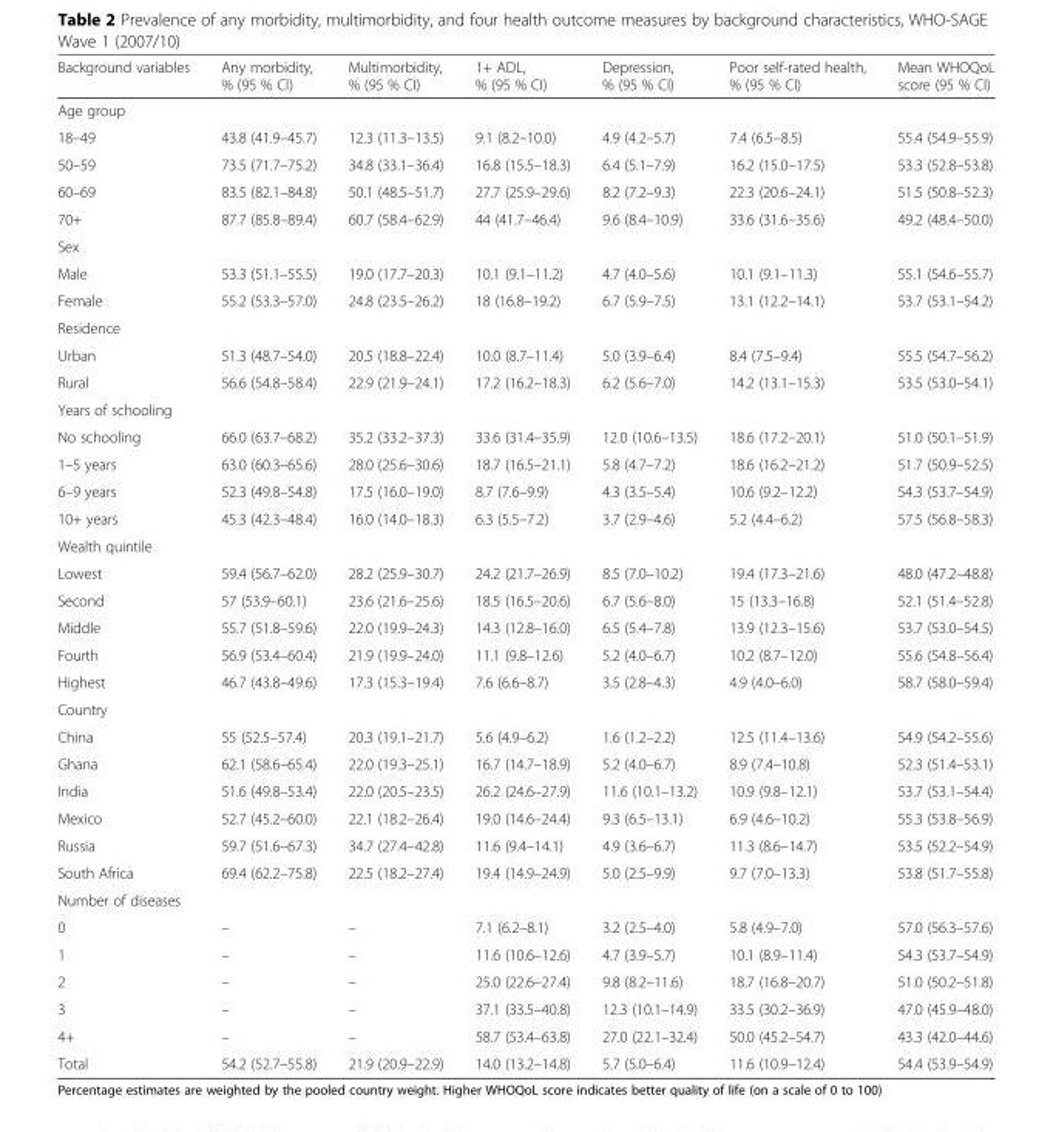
<table><thead><tr><td>Background variables</td><td>Any morbidity, % (95 % CI)</td><td>Multimorbidity, % (95 % CI)</td><td>1+ ADL, % (95 % CI)</td><td>Depression, % (95 % CI)</td><td>Poor self-rated health, % (95 % CI)</td><td>Mean WHOQoL score (95 % CI)</td></tr></thead><tbody><tr><td colspan="7">Age group</td></tr><tr><td>18–49</td><td>43.8 (41.9–45.7)</td><td>12.3 (11.3–13.5)</td><td>9.1 (8.2–10.0)</td><td>4.9 (4.2–5.7)</td><td>7.4 (6.5–8.5)</td><td>55.4 (54.9–55.9)</td></tr><tr><td>50–59</td><td>73.5 (71.7–75.2)</td><td>34.8 (33.1–36.4)</td><td>16.8 (15.5–18.3)</td><td>6.4 (5.1–7.9)</td><td>16.2 (15.0–17.5)</td><td>53.3 (52.8–53.8)</td></tr><tr><td>60–69</td><td>83.5 (82.1–84.8)</td><td>50.1 (48.5–51.7)</td><td>27.7 (25.9–29.6)</td><td>8.2 (7.2–9.3)</td><td>22.3 (20.6–24.1)</td><td>51.5 (50.8–52.3)</td></tr><tr><td>70+</td><td>87.7 (85.8–89.4)</td><td>60.7 (58.4–62.9)</td><td>44 (41.7–46.4)</td><td>9.6 (8.4–10.9)</td><td>33.6 (31.6–35.6)</td><td>49.2 (48.4–50.0)</td></tr><tr><td colspan="7">Sex</td></tr><tr><td>Male</td><td>53.3 (51.1–55.5)</td><td>19.0 (17.7–20.3)</td><td>10.1 (9.1–11.2)</td><td>4.7 (4.0–5.6)</td><td>10.1 (9.1–11.3)</td><td>55.1 (54.6–55.7)</td></tr><tr><td>Female</td><td>55.2 (53.3–57.0)</td><td>24.8 (23.5–26.2)</td><td>18 (16.8–19.2)</td><td>6.7 (5.9–7.5)</td><td>13.1 (12.2–14.1)</td><td>53.7 (53.1–54.2)</td></tr><tr><td colspan="7">Residence</td></tr><tr><td>Urban</td><td>51.3 (48.7–54.0)</td><td>20.5 (18.8–22.4)</td><td>10.0 (8.7–11.4)</td><td>5.0 (3.9–6.4)</td><td>8.4 (7.5–9.4)</td><td>55.5 (54.7–56.2)</td></tr><tr><td>Rural</td><td>56.6 (54.8–58.4)</td><td>22.9 (21.9–24.1)</td><td>17.2 (16.2–18.3)</td><td>6.2 (5.6–7.0)</td><td>14.2 (13.1–15.3)</td><td>53.5 (53.0–54.1)</td></tr><tr><td colspan="7">Years of schooling</td></tr><tr><td>No schooling</td><td>66.0 (63.7–68.2)</td><td>35.2 (33.2–37.3)</td><td>33.6 (31.4–35.9)</td><td>12.0 (10.6–13.5)</td><td>18.6 (17.2–20.1)</td><td>51.0 (50.1–51.9)</td></tr><tr><td>1–5 years</td><td>63.0 (60.3–65.6)</td><td>28.0 (25.6–30.6)</td><td>18.7 (16.5–21.1)</td><td>5.8 (4.7–7.2)</td><td>18.6 (16.2–21.2)</td><td>51.7 (50.9–52.5)</td></tr><tr><td>6–9 years</td><td>52.3 (49.8–54.8)</td><td>17.5 (16.0–19.0)</td><td>8.7 (7.6–9.9)</td><td>4.3 (3.5–5.4)</td><td>10.6 (9.2–12.2)</td><td>54.3 (53.7–54.9)</td></tr><tr><td>10+ years</td><td>45.3 (42.3–48.4)</td><td>16.0 (14.0–18.3)</td><td>6.3 (5.5–7.2)</td><td>3.7 (2.9–4.6)</td><td>5.2 (4.4–6.2)</td><td>57.5 (56.8–58.3)</td></tr><tr><td colspan="7">Wealth quintile</td></tr><tr><td>Lowest</td><td>59.4 (56.7–62.0)</td><td>28.2 (25.9–30.7)</td><td>24.2 (21.7–26.9)</td><td>8.5 (7.0–10.2)</td><td>19.4 (17.3–21.6)</td><td>48.0 (47.2–48.8)</td></tr><tr><td>Second</td><td>57 (53.9–60.1)</td><td>23.6 (21.6–25.6)</td><td>18.5 (16.5–20.6)</td><td>6.7 (5.6–8.0)</td><td>15 (13.3–16.8)</td><td>52.1 (51.4–52.8)</td></tr><tr><td>Middle</td><td>55.7 (51.8–59.6)</td><td>22.0 (19.9–24.3)</td><td>14.3 (12.8–16.0)</td><td>6.5 (5.4–7.8)</td><td>13.9 (12.3–15.6)</td><td>53.7 (53.0–54.5)</td></tr><tr><td>Fourth</td><td>56.9 (53.4–60.4)</td><td>21.9 (19.9–24.0)</td><td>11.1 (9.8–12.6)</td><td>5.2 (4.0–6.7)</td><td>10.2 (8.7–12.0)</td><td>55.6 (54.8–56.4)</td></tr><tr><td>Highest</td><td>46.7 (43.8–49.6)</td><td>17.3 (15.3–19.4)</td><td>7.6 (6.6–8.7)</td><td>3.5 (2.8–4.3)</td><td>4.9 (4.0–6.0)</td><td>58.7 (58.0–59.4)</td></tr><tr><td colspan="7">Country</td></tr><tr><td>China</td><td>55 (52.5–57.4)</td><td>20.3 (19.1–21.7)</td><td>5.6 (4.9–6.2)</td><td>1.6 (1.2–2.2)</td><td>12.5 (11.4–13.6)</td><td>54.9 (54.2–55.6)</td></tr><tr><td>Ghana</td><td>62.1 (58.6–65.4)</td><td>22.0 (19.3–25.1)</td><td>16.7 (14.7–18.9)</td><td>5.2 (4.0–6.7)</td><td>8.9 (7.4–10.8)</td><td>52.3 (51.4–53.1)</td></tr><tr><td>India</td><td>51.6 (49.8–53.4)</td><td>22.0 (20.5–23.5)</td><td>26.2 (24.6–27.9)</td><td>11.6 (10.1–13.2)</td><td>10.9 (9.8–12.1)</td><td>53.7 (53.1–54.4)</td></tr><tr><td>Mexico</td><td>52.7 (45.2–60.0)</td><td>22.1 (18.2–26.4)</td><td>19.0 (14.6–24.4)</td><td>9.3 (6.5–13.1)</td><td>6.9 (4.6–10.2)</td><td>55.3 (53.8–56.9)</td></tr><tr><td>Russia</td><td>59.7 (51.6–67.3)</td><td>34.7 (27.4–42.8)</td><td>11.6 (9.4–14.1)</td><td>4.9 (3.6–6.7)</td><td>11.3 (8.6–14.7)</td><td>53.5 (52.2–54.9)</td></tr><tr><td>South Africa</td><td>69.4 (62.2–75.8)</td><td>22.5 (18.2–27.4)</td><td>19.4 (14.9–24.9)</td><td>5.0 (2.5–9.9)</td><td>9.7 (7.0–13.3)</td><td>53.8 (51.7–55.8)</td></tr><tr><td colspan="7">Number of diseases</td></tr><tr><td>0</td><td>–</td><td>–</td><td>7.1 (6.2–8.1)</td><td>3.2 (2.5–4.0)</td><td>5.8 (4.9–7.0)</td><td>57.0 (56.3–57.6)</td></tr><tr><td>1</td><td>–</td><td>–</td><td>11.6 (10.6–12.6)</td><td>4.7 (3.9–5.7)</td><td>10.1 (8.9–11.4)</td><td>54.3 (53.7–54.9)</td></tr><tr><td>2</td><td>–</td><td>–</td><td>25.0 (22.6–27.4)</td><td>9.8 (8.2–11.6)</td><td>18.7 (16.8–20.7)</td><td>51.0 (50.2–51.8)</td></tr><tr><td>3</td><td>–</td><td>–</td><td>37.1 (33.5–40.8)</td><td>12.3 (10.1–14.9)</td><td>33.5 (30.2–36.9)</td><td>47.0 (45.9–48.0)</td></tr><tr><td>4+</td><td>–</td><td>–</td><td>58.7 (53.4–63.8)</td><td>27.0 (22.1–32.4)</td><td>50.0 (45.2–54.7)</td><td>43.3 (42.0–44.6)</td></tr><tr><td>Total</td><td>54.2 (52.7–55.8)</td><td>21.9 (20.9–22.9)</td><td>14.0 (13.2–14.8)</td><td>5.7 (5.0–6.4)</td><td>11.6 (10.9–12.4)</td><td>54.4 (53.9–54.9)</td></tr></tbody></table>